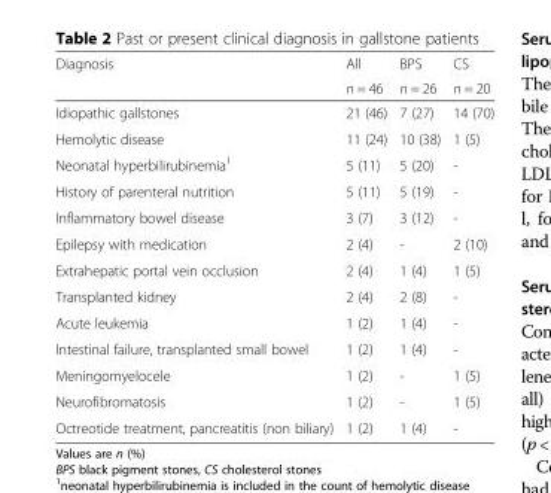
<table><thead><tr><td rowspan="2">Diagnosis</td><td rowspan="2">All n = 46</td><td rowspan="2">BPS n = 26</td><td rowspan="2">CS n = 20</td></tr><tr></tr></thead><tbody><tr><td>Idiopathic gallstones</td><td>21 (46)</td><td>7 (27)</td><td>14 (70)</td></tr><tr><td>Hemolytic disease</td><td>11 (24)</td><td>10 (38)</td><td>1 (5)</td></tr><tr><td>Neonatal hyperbilirubinemia<sup>1</sup></td><td>5 (11)</td><td>5 (20)</td><td>-</td></tr><tr><td>History of parenteral nutrition</td><td>5 (11)</td><td>5 (19)</td><td>-</td></tr><tr><td>Inflammatory bowel disease</td><td>3 (7)</td><td>3 (12)</td><td>-</td></tr><tr><td>Epilepsy with medication</td><td>2 (4)</td><td>-</td><td>2 (10)</td></tr><tr><td>Extrahepatic portal vein occlusion</td><td>2 (4)</td><td>1 (4)</td><td>1 (5)</td></tr><tr><td>Transplanted kidney</td><td>2 (4)</td><td>2 (8)</td><td>-</td></tr><tr><td>Acute leukemia</td><td>1 (2)</td><td>1 (4)</td><td>-</td></tr><tr><td>Intestinal failure, transplanted small bowel</td><td>1 (2)</td><td>1 (4)</td><td>-</td></tr><tr><td>Meningomyelocele</td><td>1 (2)</td><td>-</td><td>1 (5)</td></tr><tr><td>Neurofibromatosis</td><td>1 (2)</td><td>-</td><td>1 (5)</td></tr><tr><td>Octreotide treatment, pancreatitis (non biliary)</td><td>1 (2)</td><td>1 (4)</td><td>-</td></tr></tbody></table>